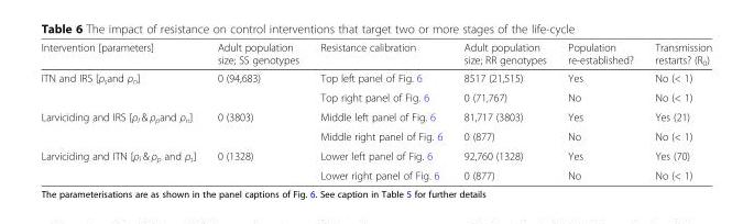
<table><thead><tr><td>Intervention [parameters]</td><td>Adult population size; SS genotypes</td><td>Resistance calibration</td><td>Adult population size; RR genotypes</td><td>Population re-established?</td><td>Transmission restarts? (R<sub>0</sub>)</td></tr></thead><tbody><tr><td rowspan="2">ITN and IRS [ρ<sub>s</sub>and ρ<sub>n</sub>]</td><td rowspan="2">0 (94,683)</td><td>Top left panel of Fig. 6</td><td>8517 (21,515)</td><td>Yes</td><td>No (&lt; 1)</td></tr><tr><td>Top right panel of Fig. 6</td><td>0 (71,767)</td><td>No</td><td>No (&lt; 1)</td></tr><tr><td rowspan="2">Larviciding and IRS [ρ<sub>l</sub> &amp; ρ<sub>p</sub>and ρ<sub>n</sub>]</td><td rowspan="2">0 (3803)</td><td>Middle left panel of Fig. 6</td><td>81,717 (3803)</td><td>Yes</td><td>Yes (21)</td></tr><tr><td>Middle right panel of Fig. 6</td><td>0 (877)</td><td>No</td><td>No (&lt; 1)</td></tr><tr><td rowspan="2">Larviciding and ITN [ρ<sub>l</sub> &amp; ρ<sub>p</sub> and ρ<sub>s</sub>]</td><td rowspan="2">0 (1328)</td><td>Lower left panel of Fig. 6</td><td>92,760 (1328)</td><td>Yes</td><td>Yes (70)</td></tr><tr><td>Lower right panel of Fig. 6</td><td>0 (877)</td><td>No</td><td>No (&lt; 1)</td></tr></tbody></table>